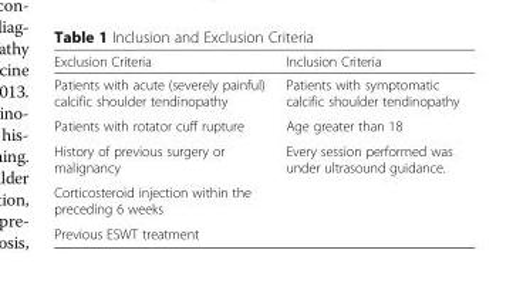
<table><thead><tr><td>Exclusion Criteria</td><td>Inclusion Criteria</td></tr></thead><tbody><tr><td>Patients with acute (severely painful) calcific shoulder tendinopathy</td><td>Patients with symptomatic calcific shoulder tendinopathy</td></tr><tr><td>Patients with rotator cuff rupture</td><td>Age greater than 18</td></tr><tr><td>History of previous surgery or malignancy</td><td>Every session performed was under ultrasound guidance.</td></tr><tr><td colspan="2">Corticosteroid injection within the preceding 6 weeks</td></tr><tr><td>Previous ESWT treatment</td><td></td></tr></tbody></table>